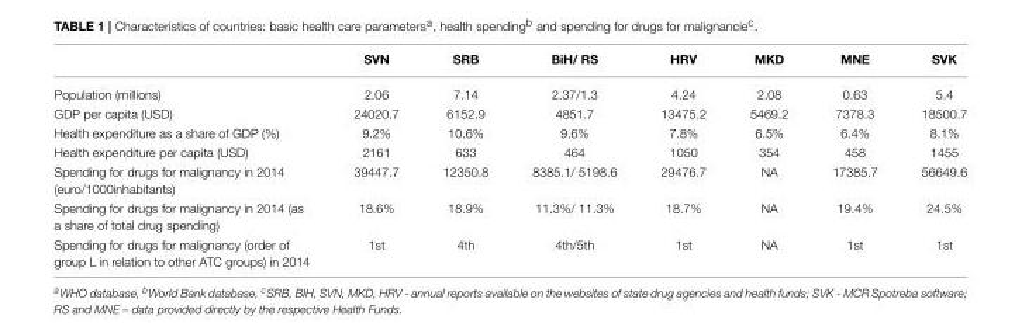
<table><thead><tr><td></td><td>SVN</td><td>SRB</td><td>BiH/ RS</td><td>HRV</td><td>MKD</td><td>MNE</td><td>SVK</td></tr></thead><tbody><tr><td>Population (millions)</td><td>2.06</td><td>7.14</td><td>2.37/1.3</td><td>4.24</td><td>2.08</td><td>0.63</td><td>5.4</td></tr><tr><td>GDP per capita (USD)</td><td>24020.7</td><td>6152.9</td><td>4851.7</td><td>13475.2</td><td>5469.2</td><td>7378.3</td><td>18500.7</td></tr><tr><td>Health expenditure as a share of GDP (%)</td><td>9.2%</td><td>10.6%</td><td>9.6%</td><td>7.8%</td><td>6.5%</td><td>6.4%</td><td>8.1%</td></tr><tr><td>Health expenditure per capita (USD)</td><td>2161</td><td>633</td><td>464</td><td>1050</td><td>354</td><td>458</td><td>1455</td></tr><tr><td>Spending for drugs for malignancy in 2014 (euro/1000inhabitants)</td><td>39447.7</td><td>12350.8</td><td>8385.1/ 5198.6</td><td>29476.7</td><td>NA</td><td>17385.7</td><td>56649.6</td></tr><tr><td>Spending for drugs for malignancy in 2014 (as a share of total drug spending)</td><td>18.6%</td><td>18.9%</td><td>11.3%/ 11.3%</td><td>18.7%</td><td>NA</td><td>19.4%</td><td>24.5%</td></tr><tr><td>Spending for drugs for malignancy (order of group L in relation to other ATC groups) in 2014</td><td>1st</td><td>4th</td><td>4th/5th</td><td>1st</td><td>NA</td><td>1st</td><td>1st</td></tr></tbody></table>